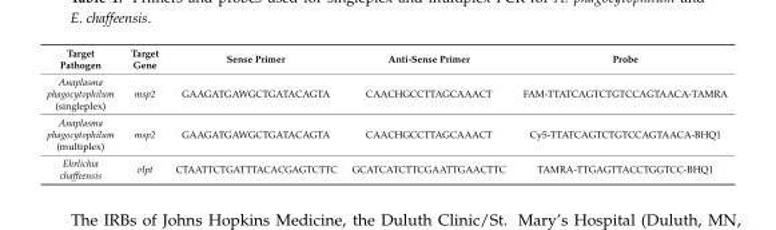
<table><thead><tr><td>Target Pathogen</td><td>Target Gene</td><td>Sense Primer</td><td>Anti-Sense Primer</td><td>Probe</td></tr></thead><tbody><tr><td>Anaplasma phagocytophilum (singleplex)</td><td>msp2</td><td>GAAGATGAWGCTGATACAGTA</td><td>CAACHGCCTTAGCAAACT</td><td>FAM-TTATCAGTCTGTCCAGTAACA-TAMRA</td></tr><tr><td>Anaplasma phagocytophilum (multiplex)</td><td>msp2</td><td>GAAGATGAWGCTGATACAGTA</td><td>CAACHGCCTTAGCAAACT</td><td>Cy5-TTATCAGTCTGTCCAGTAACA-BHQ1</td></tr><tr><td>Ehrlichia chaffeensis</td><td>vlpt</td><td>CTAATTCTGATTTACACGAGTCTTC</td><td>GCATCATCTTCGAATTGAACTTC</td><td>TAMRA-TTGAGTTACCTGGTCC-BHQ1</td></tr></tbody></table>